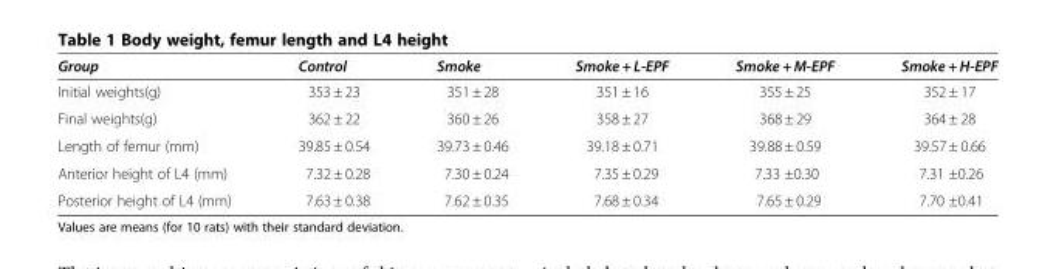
<table><thead><tr><td>Group</td><td>Control</td><td>Smoke</td><td>Smoke + L-EPF</td><td>Smoke + M-EPF</td><td>Smoke + H-EPF</td></tr></thead><tbody><tr><td>Initial weights(g)</td><td>353 ± 23</td><td>351 ± 28</td><td>351 ± 16</td><td>355 ± 25</td><td>352 ± 17</td></tr><tr><td>Final weights(g)</td><td>362 ± 22</td><td>360 ± 26</td><td>358 ± 27</td><td>368 ± 29</td><td>364 ± 28</td></tr><tr><td>Length of femur (mm)</td><td>39.85 ± 0.54</td><td>39.73 ± 0.46</td><td>39.18 ± 0.71</td><td>39.88 ± 0.59</td><td>39.57 ± 0.66</td></tr><tr><td>Anterior height of L4 (mm)</td><td>7.32 ± 0.28</td><td>7.30 ± 0.24</td><td>7.35 ± 0.29</td><td>7.33 ±0.30</td><td>7.31 ±0.26</td></tr><tr><td>Posterior height of L4 (mm)</td><td>7.63 ± 0.38</td><td>7.62 ± 0.35</td><td>7.68 ± 0.34</td><td>7.65 ± 0.29</td><td>7.70 ±0.41</td></tr></tbody></table>